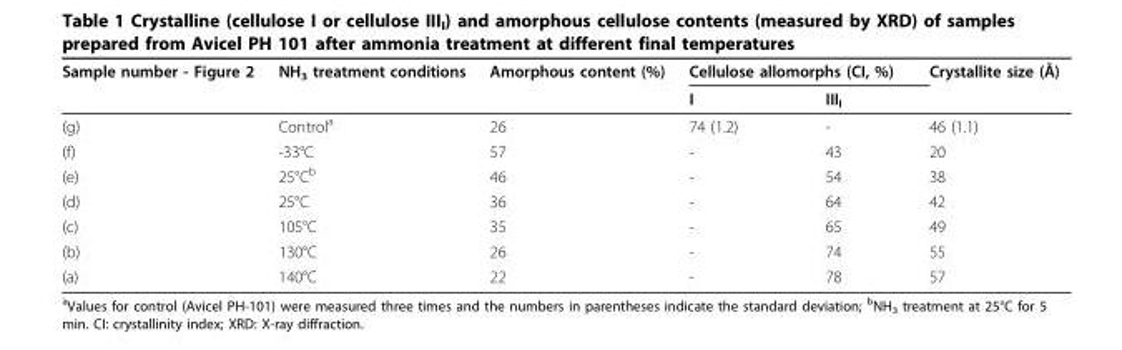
<table><thead><tr><td rowspan="2">Sample number - Figure 2</td><td rowspan="2">NH<sub>3</sub> treatment conditions</td><td rowspan="2">Amorphous content (%)</td><td colspan="2">Cellulose allomorphs (CI, %)</td><td rowspan="2">Crystallite size (Å)</td></tr><tr><td>I</td><td>III<sub>I</sub></td></tr></thead><tbody><tr><td>(g)</td><td>Control<sup>a</sup></td><td>26</td><td>74 (1.2)</td><td>-</td><td>46 (1.1)</td></tr><tr><td>(f)</td><td>-33°C</td><td>57</td><td>-</td><td>43</td><td>20</td></tr><tr><td>(e)</td><td>25°C<sup>b</sup></td><td>46</td><td>-</td><td>54</td><td>38</td></tr><tr><td>(d)</td><td>25°C</td><td>36</td><td>-</td><td>64</td><td>42</td></tr><tr><td>(c)</td><td>105°C</td><td>35</td><td>-</td><td>65</td><td>49</td></tr><tr><td>(b)</td><td>130°C</td><td>26</td><td>-</td><td>74</td><td>55</td></tr><tr><td>(a)</td><td>140°C</td><td>22</td><td>-</td><td>78</td><td>57</td></tr></tbody></table>